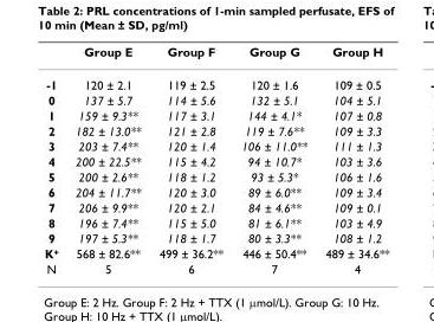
<table><thead><tr><td></td><td>Group E</td><td>Group F</td><td>Group G</td><td>Group H</td></tr></thead><tbody><tr><td>-1</td><td>120 ± 2.1</td><td>119 ± 2.5</td><td>120 ± 1.6</td><td>109 ± 0.5</td></tr><tr><td>0</td><td>137 ± 5.7</td><td>114 ± 5.6</td><td>132 ± 5.1</td><td>104 ± 5.1</td></tr><tr><td>1</td><td>159 ± 9.3**</td><td>117 ± 3.1</td><td>144 ± 4.1*</td><td>107 ± 0.8</td></tr><tr><td>2</td><td>182 ± 13.0**</td><td>121 ± 2.8</td><td>119 ± 7.6**</td><td>109 ± 3.3</td></tr><tr><td>3</td><td>203 ± 7.4**</td><td>120 ± 1.4</td><td>106 ± 11.0**</td><td>111 ± 1.3</td></tr><tr><td>4</td><td>200 ± 22.5**</td><td>115 ± 4.2</td><td>94 ± 10.7*</td><td>103 ± 3.6</td></tr><tr><td>5</td><td>200 ± 2.6**</td><td>118 ± 1.2</td><td>93 ± 5.3*</td><td>106 ± 1.6</td></tr><tr><td>6</td><td>204 ± 11.7**</td><td>120 ± 3.0</td><td>89 ± 6.0**</td><td>109 ± 3.4</td></tr><tr><td>7</td><td>206 ± 9.9**</td><td>120 ± 2.1</td><td>84 ± 4.6**</td><td>109 ± 0.1</td></tr><tr><td>8</td><td>196 ± 7.4**</td><td>115 ± 5.0</td><td>81 ± 6.1**</td><td>103 ± 4.9</td></tr><tr><td>9</td><td>197 ± 5.3**</td><td>118 ± 1.7</td><td>80 ± 3.3**</td><td>108 ± 1.2</td></tr><tr><td>K<sup>+</sup></td><td>568 ± 82.6**</td><td>499 ± 36.2**</td><td>446 ± 50.4**</td><td>489 ± 34.6**</td></tr><tr><td>N</td><td>5</td><td>6</td><td>7</td><td>4</td></tr></tbody></table>